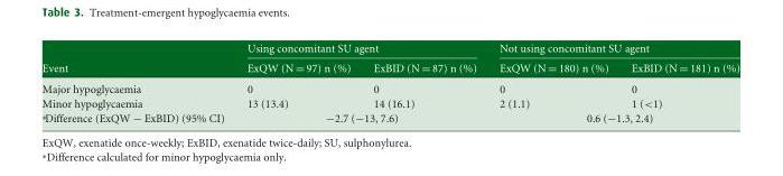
<table><thead><tr><td rowspan="2">Event</td><td colspan="2">Using concomitant SU agent</td><td colspan="2">Not using concomitant SU agent</td></tr><tr><td>ExQW (N = 97) n (%)</td><td>ExBID (N = 87) n (%)</td><td>ExQW (N = 180) n (%)</td><td>ExBID (N = 181) n (%)</td></tr></thead><tbody><tr><td>Major hypoglycaemia</td><td>0</td><td>0</td><td>0</td><td>0</td></tr><tr><td>Minor hypoglycaemia</td><td>13 (13.4)</td><td>14 (16.1)</td><td>2 (1.1)</td><td>1 (&lt;1)</td></tr><tr><td>∗Difference (ExQW − ExBID) (95% CI)</td><td colspan="2">−2.7 (−13, 7.6)</td><td colspan="2">0.6 (−1.3, 2.4)</td></tr></tbody></table>